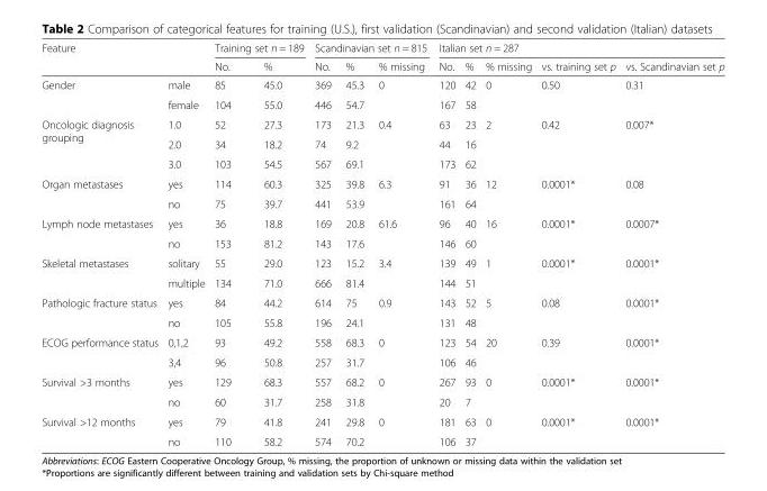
<table><thead><tr><td rowspan="2">Feature</td><td rowspan="2"></td><td colspan="2">Training set n = 189</td><td colspan="3">Scandinavian set n = 815</td><td colspan="5">Italian set n = 287</td></tr><tr><td>No.</td><td>%</td><td>No.</td><td>%</td><td>% missing</td><td>No.</td><td>%</td><td>% missing</td><td>vs. training set p</td><td>vs. Scandinavian set p</td></tr></thead><tbody><tr><td rowspan="2">Gender</td><td>male</td><td>85</td><td>45.0</td><td>369</td><td>45.3</td><td>0</td><td>120</td><td>42</td><td>0</td><td>0.50</td><td>0.31</td></tr><tr><td>female</td><td>104</td><td>55.0</td><td>446</td><td>54.7</td><td></td><td>167</td><td>58</td><td></td><td></td><td></td></tr><tr><td rowspan="3">Oncologic diagnosis grouping</td><td>1.0</td><td>52</td><td>27.3</td><td>173</td><td>21.3</td><td>0.4</td><td>63</td><td>23</td><td>2</td><td>0.42</td><td>0.007*</td></tr><tr><td>2.0</td><td>34</td><td>18.2</td><td>74</td><td>9.2</td><td></td><td>44</td><td>16</td><td></td><td></td><td></td></tr><tr><td>3.0</td><td>103</td><td>54.5</td><td>567</td><td>69.1</td><td></td><td>173</td><td>62</td><td></td><td></td><td></td></tr><tr><td rowspan="2">Organ metastases</td><td>yes</td><td>114</td><td>60.3</td><td>325</td><td>39.8</td><td>6.3</td><td>91</td><td>36</td><td>12</td><td>0.0001*</td><td>0.08</td></tr><tr><td>no</td><td>75</td><td>39.7</td><td>441</td><td>53.9</td><td></td><td>161</td><td>64</td><td></td><td></td><td></td></tr><tr><td rowspan="2">Lymph node metastases</td><td>yes</td><td>36</td><td>18.8</td><td>169</td><td>20.8</td><td>61.6</td><td>96</td><td>40</td><td>16</td><td>0.0001*</td><td>0.0007*</td></tr><tr><td>no</td><td>153</td><td>81.2</td><td>143</td><td>17.6</td><td></td><td>146</td><td>60</td><td></td><td></td><td></td></tr><tr><td rowspan="2">Skeletal metastases</td><td>solitary</td><td>55</td><td>29.0</td><td>123</td><td>15.2</td><td>3.4</td><td>139</td><td>49</td><td>1</td><td>0.0001*</td><td>0.0001*</td></tr><tr><td>multiple</td><td>134</td><td>71.0</td><td>666</td><td>81.4</td><td></td><td>144</td><td>51</td><td></td><td></td><td></td></tr><tr><td rowspan="2">Pathologic fracture status</td><td>yes</td><td>84</td><td>44.2</td><td>614</td><td>75</td><td>0.9</td><td>143</td><td>52</td><td>5</td><td>0.08</td><td>0.0001*</td></tr><tr><td>no</td><td>105</td><td>55.8</td><td>196</td><td>24.1</td><td></td><td>131</td><td>48</td><td></td><td></td><td></td></tr><tr><td rowspan="2">ECOG performance status</td><td>0,1,2</td><td>93</td><td>49.2</td><td>558</td><td>68.3</td><td>0</td><td>123</td><td>54</td><td>20</td><td>0.39</td><td>0.0001*</td></tr><tr><td>3,4</td><td>96</td><td>50.8</td><td>257</td><td>31.7</td><td></td><td>106</td><td>46</td><td></td><td></td><td></td></tr><tr><td rowspan="2">Survival &gt;3 months</td><td>yes</td><td>129</td><td>68.3</td><td>557</td><td>68.2</td><td>0</td><td>267</td><td>93</td><td>0</td><td>0.0001*</td><td>0.0001*</td></tr><tr><td>no</td><td>60</td><td>31.7</td><td>258</td><td>31.8</td><td></td><td>20</td><td>7</td><td></td><td></td><td></td></tr><tr><td rowspan="2">Survival &gt;12 months</td><td>yes</td><td>79</td><td>41.8</td><td>241</td><td>29.8</td><td>0</td><td>181</td><td>63</td><td>0</td><td>0.0001*</td><td>0.0001*</td></tr><tr><td>no</td><td>110</td><td>58.2</td><td>574</td><td>70.2</td><td></td><td>106</td><td>37</td><td></td><td></td><td></td></tr></tbody></table>